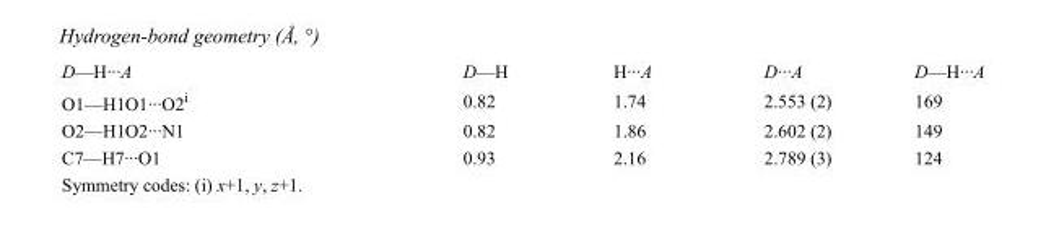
<table><tbody><tr><td>D—H···A</td><td>D—H</td><td>H···A</td><td>D···A</td><td>D—H···A</td></tr><tr><td>O1—H1O1···O2<sup>i</sup></td><td>0.82</td><td>1.74</td><td>2.553 (2)</td><td>169</td></tr><tr><td>O2—H1O2···N1</td><td>0.82</td><td>1.86</td><td>2.602 (2)</td><td>149</td></tr><tr><td>C7—H7···O1</td><td>0.93</td><td>2.16</td><td>2.789 (3)</td><td>124</td></tr></tbody></table>